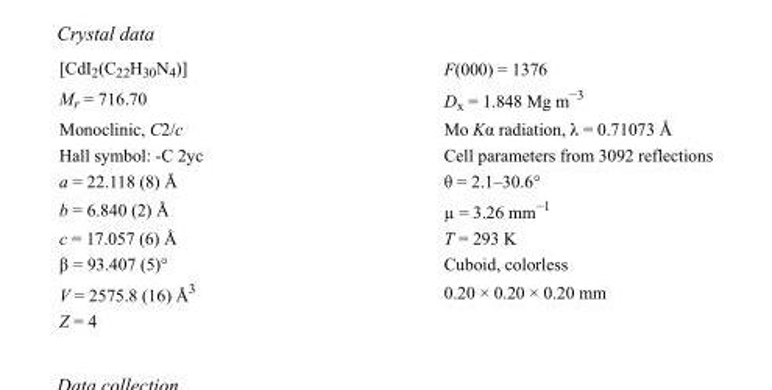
<table><tbody><tr><td>[CdI<sub>2</sub>(C<sub>22</sub>H<sub>30</sub>N<sub>4</sub>)]</td><td>F(000) = 1376</td></tr><tr><td>M<sub>r</sub> = 716.70</td><td>D<sub>x</sub> = 1.848 Mg m<sup>−3</sup></td></tr><tr><td>Monoclinic, C2/c</td><td>Mo Kα radiation, λ = 0.71073 Å</td></tr><tr><td>Hall symbol: -C 2yc</td><td>Cell parameters from 3092 reflections</td></tr><tr><td>a = 22.118 (8) Å</td><td>θ = 2.1–30.6°</td></tr><tr><td>b = 6.840 (2) Å</td><td>µ = 3.26 mm<sup>−1</sup></td></tr><tr><td>c = 17.057 (6) Å</td><td>T = 293 K</td></tr><tr><td>β = 93.407 (5)°</td><td>Cuboid, colorless</td></tr><tr><td>V = 2575.8 (16) Å<sup>3</sup></td><td>0.20 × 0.20 × 0.20 mm</td></tr><tr><td>Z = 4</td><td></td></tr></tbody></table>